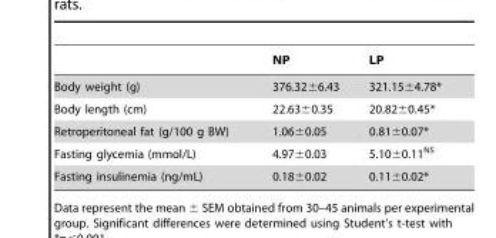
<table><thead><tr><td></td><td>NP</td><td>LP</td></tr></thead><tbody><tr><td>Body weight (g)</td><td>376.32±6.43</td><td>321.15±4.78*</td></tr><tr><td>Body length (cm)</td><td>22.63±0.35</td><td>20.82±0.45*</td></tr><tr><td>Retroperitoneal fat (g/100 g BW)</td><td>1.06±0.05</td><td>0.81±0.07*</td></tr><tr><td>Fasting glycemia (mmol/L)</td><td>4.97±0.03</td><td>5.10±0.11<sup>NS</sup></td></tr><tr><td>Fasting insulinemia (ng/mL)</td><td>0.18±0.02</td><td>0.11±0.02*</td></tr></tbody></table>